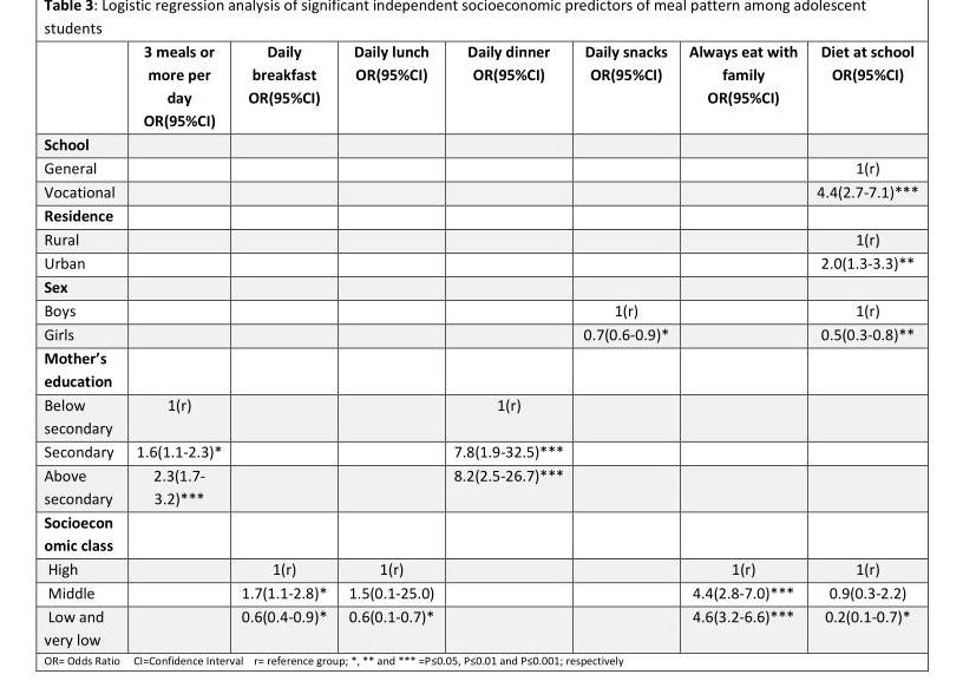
<table><thead><tr><td></td><td>3 meals or more per day OR(95%CI)</td><td>Daily breakfast OR(95%CI)</td><td>Daily lunch OR(95%CI)</td><td>Daily dinner OR(95%CI)</td><td>Daily snacks OR(95%CI)</td><td>Always eat with family OR(95%CI)</td><td>Diet at school OR(95%CI)</td></tr></thead><tbody><tr><td colspan="8">School</td></tr><tr><td>General</td><td></td><td></td><td></td><td></td><td></td><td></td><td>1(r)</td></tr><tr><td>Vocational</td><td></td><td></td><td></td><td></td><td></td><td></td><td>4.4(2.7-7.1)***</td></tr><tr><td colspan="8">Residence</td></tr><tr><td>Rural</td><td></td><td></td><td></td><td></td><td></td><td></td><td>1(r)</td></tr><tr><td>Urban</td><td></td><td></td><td></td><td></td><td></td><td></td><td>2.0(1.3-3.3)**</td></tr><tr><td colspan="8">Sex</td></tr><tr><td>Boys</td><td></td><td></td><td></td><td></td><td>1(r)</td><td></td><td>1(r)</td></tr><tr><td>Girls</td><td></td><td></td><td></td><td></td><td>0.7(0.6-0.9)*</td><td></td><td>0.5(0.3-0.8)**</td></tr><tr><td colspan="8">Mother’s education</td></tr><tr><td>Below secondary</td><td>1(r)</td><td></td><td></td><td>1(r)</td><td></td><td></td><td></td></tr><tr><td>Secondary</td><td>1.6(1.1-2.3)*</td><td></td><td></td><td>7.8(1.9-32.5)***</td><td></td><td></td><td></td></tr><tr><td>Above secondary</td><td>2.3(1.7- 3.2)***</td><td></td><td></td><td>8.2(2.5-26.7)***</td><td></td><td></td><td></td></tr><tr><td colspan="8">Socioecon omic class</td></tr><tr><td>High</td><td></td><td>1(r)</td><td>1(r)</td><td></td><td></td><td>1(r)</td><td>1(r)</td></tr><tr><td>Middle</td><td></td><td>1.7(1.1-2.8)*</td><td>1.5(0.1-25.0)</td><td></td><td></td><td>4.4(2.8-7.0)***</td><td>0.9(0.3-2.2)</td></tr><tr><td>Low and very low</td><td></td><td>0.6(0.4-0.9)*</td><td>0.6(0.1-0.7)*</td><td></td><td></td><td>4.6(3.2-6.6)***</td><td>0.2(0.1-0.7)*</td></tr></tbody></table>